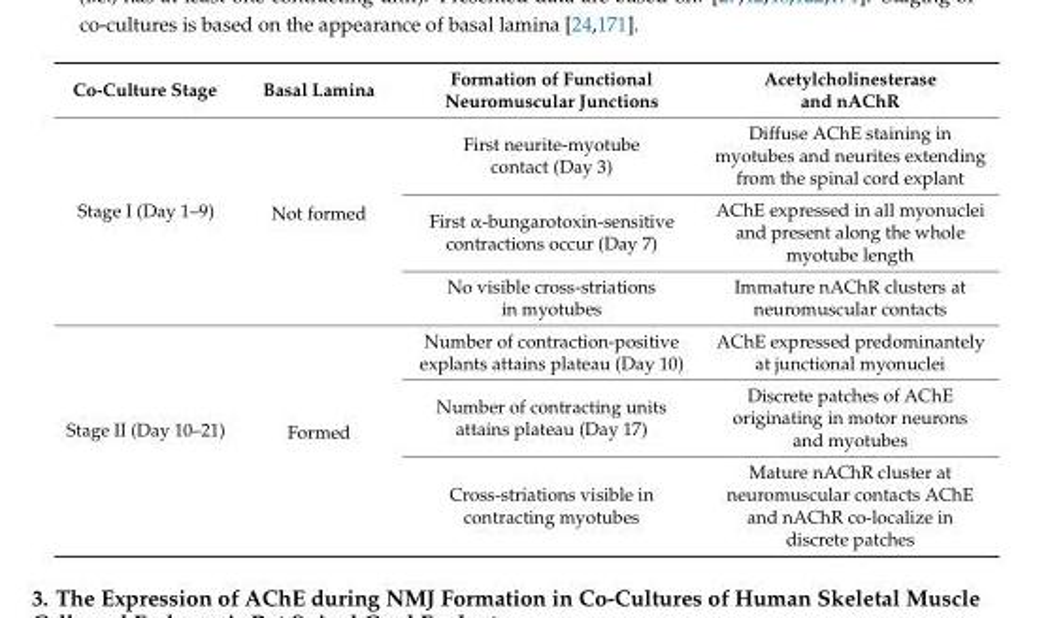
<table><thead><tr><td>Co-Culture Stage</td><td>Basal Lamina</td><td>Formation of Functional Neuromuscular Junctions</td><td>Acetylcholinesterase and nAChR</td></tr></thead><tbody><tr><td rowspan="3">Stage I (Day 1–9)</td><td rowspan="3">Not formed</td><td>First neurite-myotube contact (Day 3)</td><td>Diffuse AChE staining in myotubes and neurites extending from the spinal cord explant</td></tr><tr><td>First α-bungarotoxin-sensitive contractions occur (Day 7)</td><td>AChE expressed in all myonuclei and present along the whole myotube length</td></tr><tr><td>No visible cross-striations in myotubes</td><td>Immature nAChR clusters at neuromuscular contacts</td></tr><tr><td rowspan="3">Stage II (Day 10–21)</td><td rowspan="3">Formed</td><td>Number of contraction-positive explants attains plateau (Day 10)</td><td>AChE expressed predominantely at junctional myonuclei</td></tr><tr><td>Number of contracting units attains plateau (Day 17)</td><td>Discrete patches of AChE originating in motor neurons and myotubes</td></tr><tr><td>Cross-striations visible in contracting myotubes</td><td>Mature nAChR cluster at neuromuscular contacts AChE and nAChR co-localize in discrete patches</td></tr></tbody></table>